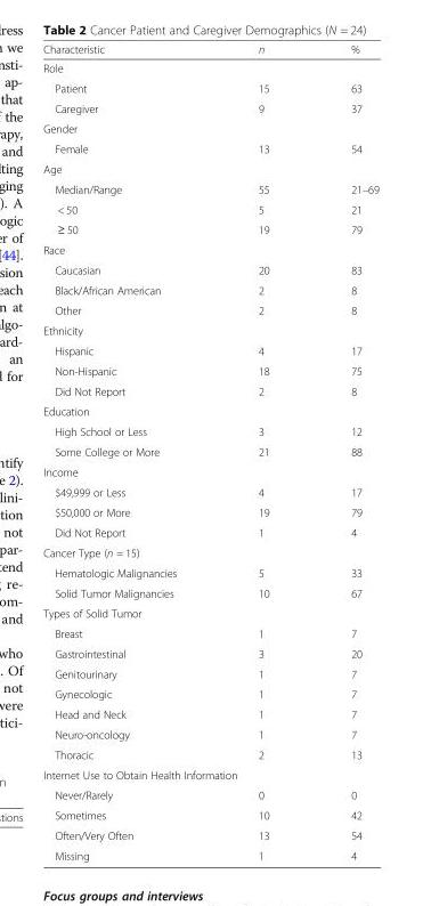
<table><thead><tr><td>Characteristic</td><td>n</td><td>%</td></tr></thead><tbody><tr><td colspan="3">Role</td></tr><tr><td>Patient</td><td>15</td><td>63</td></tr><tr><td>Caregiver</td><td>9</td><td>37</td></tr><tr><td colspan="3">Gender</td></tr><tr><td>Female</td><td>13</td><td>54</td></tr><tr><td colspan="3">Age</td></tr><tr><td>Median/Range</td><td>55</td><td>21–69</td></tr><tr><td>&lt; 50</td><td>5</td><td>21</td></tr><tr><td>≥ 50</td><td>19</td><td>79</td></tr><tr><td colspan="3">Race</td></tr><tr><td>Caucasian</td><td>20</td><td>83</td></tr><tr><td>Black/African American</td><td>2</td><td>8</td></tr><tr><td>Other</td><td>2</td><td>8</td></tr><tr><td colspan="3">Ethnicity</td></tr><tr><td>Hispanic</td><td>4</td><td>17</td></tr><tr><td>Non-Hispanic</td><td>18</td><td>75</td></tr><tr><td>Did Not Report</td><td>2</td><td>8</td></tr><tr><td colspan="3">Education</td></tr><tr><td>High School or Less</td><td>3</td><td>12</td></tr><tr><td>Some College or More</td><td>21</td><td>88</td></tr><tr><td colspan="3">Income</td></tr><tr><td>$49,999 or Less</td><td>4</td><td>17</td></tr><tr><td>$50,000 or More</td><td>19</td><td>79</td></tr><tr><td>Did Not Report</td><td>1</td><td>4</td></tr><tr><td colspan="3">Cancer Type (n = 15)</td></tr><tr><td>Hematologic Malignancies</td><td>5</td><td>33</td></tr><tr><td>Solid Tumor Malignancies</td><td>10</td><td>67</td></tr><tr><td colspan="3">Types of Solid Tumor</td></tr><tr><td>Breast</td><td>1</td><td>7</td></tr><tr><td>Gastrointestinal</td><td>3</td><td>20</td></tr><tr><td>Genitourinary</td><td>1</td><td>7</td></tr><tr><td>Gynecologic</td><td>1</td><td>7</td></tr><tr><td>Head and Neck</td><td>1</td><td>7</td></tr><tr><td>Neuro-oncology</td><td>1</td><td>7</td></tr><tr><td>Thoracic</td><td>2</td><td>13</td></tr><tr><td colspan="3">Internet Use to Obtain Health Information</td></tr><tr><td>Never/Rarely</td><td>0</td><td>0</td></tr><tr><td>Sometimes</td><td>10</td><td>42</td></tr><tr><td>Often/Very Often</td><td>13</td><td>54</td></tr><tr><td>Missing</td><td>1</td><td>4</td></tr></tbody></table>